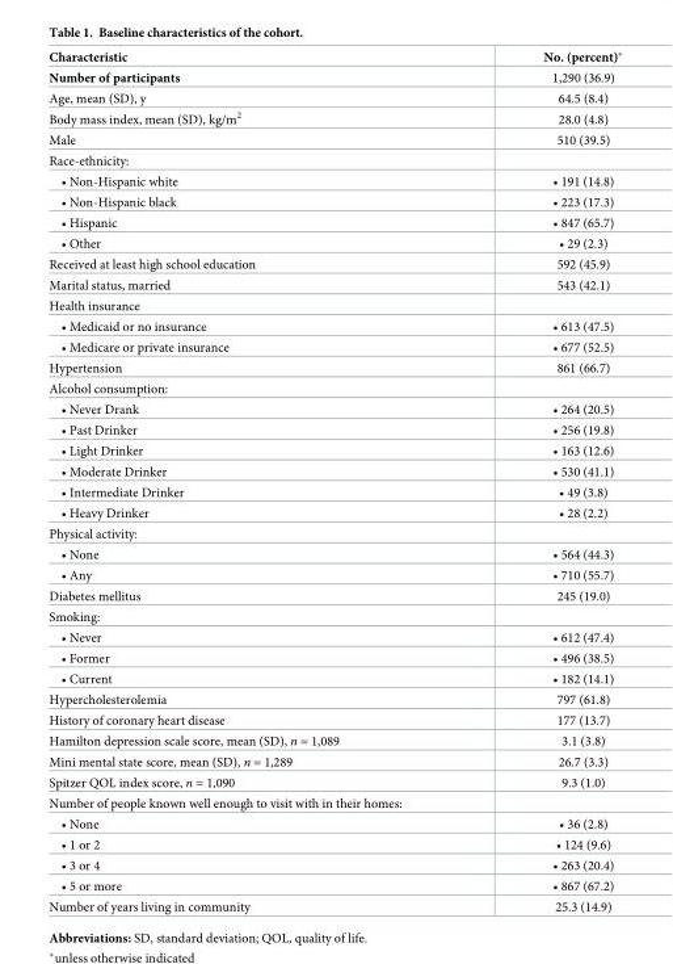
<table><thead><tr><td>Characteristic</td><td>No. (percent)*</td></tr></thead><tbody><tr><td>Number of participants</td><td>1,290 (36.9)</td></tr><tr><td>Age, mean (SD), y</td><td>64.5 (8.4)</td></tr><tr><td>Body mass index, mean (SD), kg/m<sup>2</sup></td><td>28.0 (4.8)</td></tr><tr><td>Male</td><td>510 (39.5)</td></tr><tr><td colspan="2">Race-ethnicity:</td></tr><tr><td>• Non-Hispanic white</td><td>• 191 (14.8)</td></tr><tr><td>• Non-Hispanic black</td><td>• 223 (17.3)</td></tr><tr><td>• Hispanic</td><td>• 847 (65.7)</td></tr><tr><td>• Other</td><td>• 29 (2.3)</td></tr><tr><td>Received at least high school education</td><td>592 (45.9)</td></tr><tr><td>Marital status, married</td><td>543 (42.1)</td></tr><tr><td colspan="2">Health insurance</td></tr><tr><td>• Medicaid or no insurance</td><td>• 613 (47.5)</td></tr><tr><td>• Medicare or private insurance</td><td>• 677 (52.5)</td></tr><tr><td>Hypertension</td><td>861 (66.7)</td></tr><tr><td colspan="2">Alcohol consumption:</td></tr><tr><td>• Never Drank</td><td>• 264 (20.5)</td></tr><tr><td>• Past Drinker</td><td>• 256 (19.8)</td></tr><tr><td>• Light Drinker</td><td>• 163 (12.6)</td></tr><tr><td>• Moderate Drinker</td><td>• 530 (41.1)</td></tr><tr><td>• Intermediate Drinker</td><td>• 49 (3.8)</td></tr><tr><td>• Heavy Drinker</td><td>• 28 (2.2)</td></tr><tr><td colspan="2">Physical activity:</td></tr><tr><td>• None</td><td>• 564 (44.3)</td></tr><tr><td>• Any</td><td>• 710 (55.7)</td></tr><tr><td>Diabetes mellitus</td><td>245 (19.0)</td></tr><tr><td colspan="2">Smoking:</td></tr><tr><td>• Never</td><td>• 612 (47.4)</td></tr><tr><td>• Former</td><td>• 496 (38.5)</td></tr><tr><td>• Current</td><td>• 182 (14.1)</td></tr><tr><td>Hypercholesterolemia</td><td>797 (61.8)</td></tr><tr><td>History of coronary heart disease</td><td>177 (13.7)</td></tr><tr><td>Hamilton depression scale score, mean (SD), n = 1,089</td><td>3.1 (3.8)</td></tr><tr><td>Mini mental state score, mean (SD), n = 1,289</td><td>26.7 (3.3)</td></tr><tr><td>Spitzer QOL index score, n = 1,090</td><td>9.3 (1.0)</td></tr><tr><td colspan="2">Number of people known well enough to visit with in their homes:</td></tr><tr><td>• None</td><td>• 36 (2.8)</td></tr><tr><td>• 1 or 2</td><td>• 124 (9.6)</td></tr><tr><td>• 3 or 4</td><td>• 263 (20.4)</td></tr><tr><td>• 5 or more</td><td>• 867 (67.2)</td></tr><tr><td>Number of years living in community</td><td>25.3 (14.9)</td></tr></tbody></table>